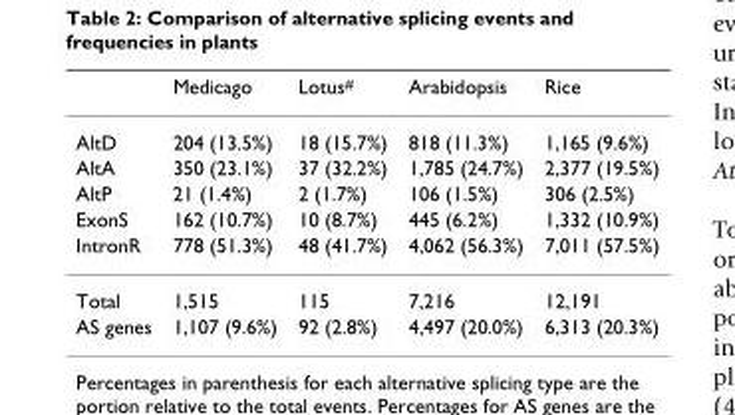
<table><thead><tr><td></td><td>Medicago</td><td>Lotus<sup>#</sup></td><td>Arabidopsis</td><td>Rice</td></tr></thead><tbody><tr><td>AltD</td><td>204 (13.5%)</td><td>18 (15.7%)</td><td>818 (11.3%)</td><td>1,165 (9.6%)</td></tr><tr><td>AltA</td><td>350 (23.1%)</td><td>37 (32.2%)</td><td>1,785 (24.7%)</td><td>2,377 (19.5%)</td></tr><tr><td>AltP</td><td>21 (1.4%)</td><td>2 (1.7%)</td><td>106 (1.5%)</td><td>306 (2.5%)</td></tr><tr><td>ExonS</td><td>162 (10.7%)</td><td>10 (8.7%)</td><td>445 (6.2%)</td><td>1,332 (10.9%)</td></tr><tr><td>IntronR</td><td>778 (51.3%)</td><td>48 (41.7%)</td><td>4,062 (56.3%)</td><td>7,011 (57.5%)</td></tr><tr><td>Total</td><td>1,515</td><td>115</td><td>7,216</td><td>12,191</td></tr><tr><td>AS genes</td><td>1,107 (9.6%)</td><td>92 (2.8%)</td><td>4,497 (20.0%)</td><td>6,313 (20.3%)</td></tr></tbody></table>